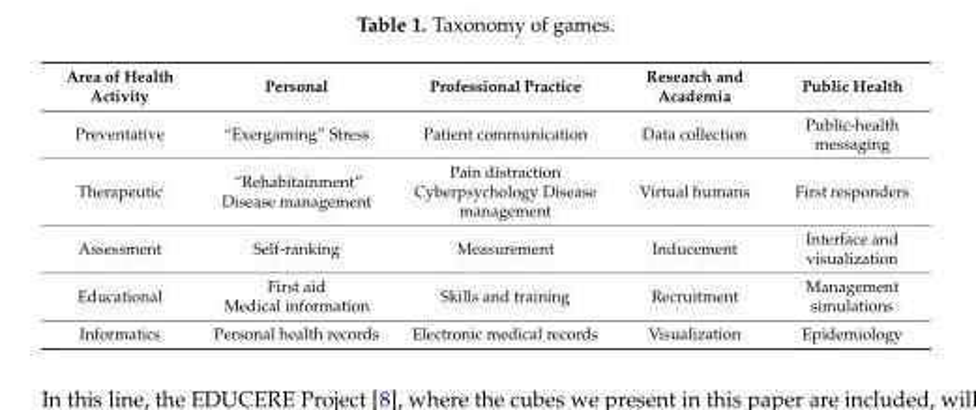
<table><thead><tr><td>Area of Health Activity</td><td>Personal</td><td>Professional Practice</td><td>Research and Academia</td><td>Public Health</td></tr></thead><tbody><tr><td>Preventative</td><td>“Exergaming” Stress</td><td>Patient communication</td><td>Data collection</td><td>Public-health messaging</td></tr><tr><td>Therapeutic</td><td>“Rehabitainment” Disease management</td><td>Pain distraction Cyberpsychology Disease management</td><td>Virtual humans</td><td>First responders</td></tr><tr><td>Assessment</td><td>Self-ranking</td><td>Measurement</td><td>Inducement</td><td>Interface and visualization</td></tr><tr><td>Educational</td><td>First aid Medical information</td><td>Skills and training</td><td>Recruitment</td><td>Management simulations</td></tr><tr><td>Informatics</td><td>Personal health records</td><td>Electronic medical records</td><td>Visualization</td><td>Epidemiology</td></tr></tbody></table>